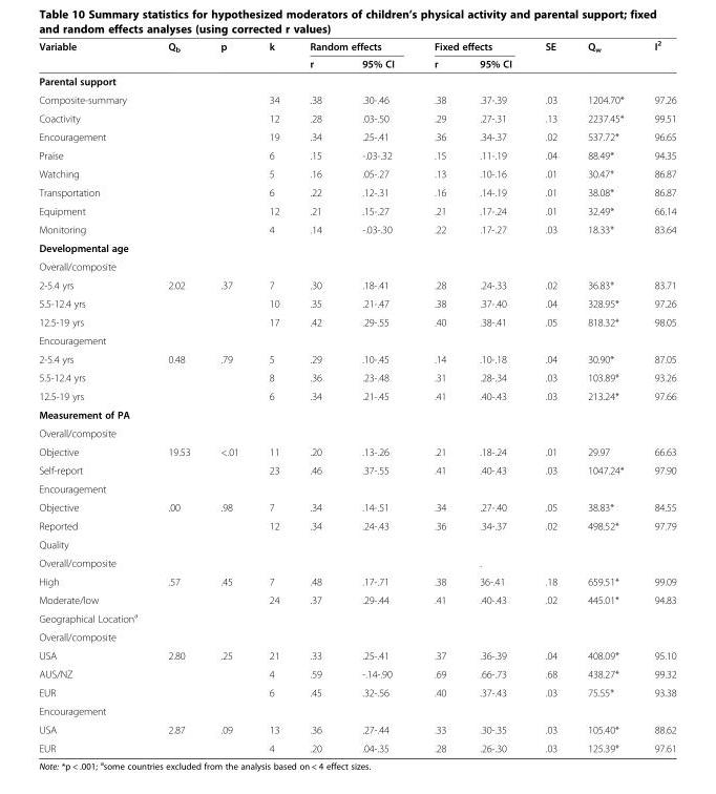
<table><thead><tr><td rowspan="2">Variable</td><td rowspan="2">Q<sub>b</sub></td><td rowspan="2">p</td><td rowspan="2">k</td><td colspan="2">Random effects</td><td colspan="2">Fixed effects</td><td rowspan="2">SE</td><td rowspan="2">Q<sub>w</sub></td><td rowspan="2">I<sup>2</sup></td></tr><tr><td>r</td><td>95% CI</td><td>r</td><td>95% CI</td></tr></thead><tbody><tr><td colspan="11">Parental support</td></tr><tr><td>Composite-summary</td><td></td><td></td><td>34</td><td>.38</td><td>.30-.46</td><td>.38</td><td>.37-.39</td><td>.03</td><td>1204.70*</td><td>97.26</td></tr><tr><td>Coactivity</td><td></td><td></td><td>12</td><td>.28</td><td>.03-.50</td><td>.29</td><td>.27-.31</td><td>.13</td><td>2237.45*</td><td>99.51</td></tr><tr><td>Encouragement</td><td></td><td></td><td>19</td><td>.34</td><td>.25-.41</td><td>.36</td><td>.34-.37</td><td>.02</td><td>537.72*</td><td>96.65</td></tr><tr><td>Praise</td><td></td><td></td><td>6</td><td>.15</td><td>-.03-.32</td><td>.15</td><td>.11-.19</td><td>.04</td><td>88.49*</td><td>94.35</td></tr><tr><td>Watching</td><td></td><td></td><td>5</td><td>.16</td><td>.05-.27</td><td>.13</td><td>.10-.16</td><td>.01</td><td>30.47*</td><td>86.87</td></tr><tr><td>Transportation</td><td></td><td></td><td>6</td><td>.22</td><td>.12-.31</td><td>.16</td><td>.14-.19</td><td>.01</td><td>38.08*</td><td>86.87</td></tr><tr><td>Equipment</td><td></td><td></td><td>12</td><td>.21</td><td>.15-.27</td><td>.21</td><td>.17-.24</td><td>.01</td><td>32.49*</td><td>66.14</td></tr><tr><td>Monitoring</td><td></td><td></td><td>4</td><td>.14</td><td>-.03-.30</td><td>.22</td><td>.17-.27</td><td>.03</td><td>18.33*</td><td>83.64</td></tr><tr><td colspan="11">Developmental age</td></tr><tr><td colspan="11">Overall/composite</td></tr><tr><td>2-5.4 yrs</td><td>2.02</td><td>.37</td><td>7</td><td>.30</td><td>.18-.41</td><td>.28</td><td>.24-.33</td><td>.02</td><td>36.83*</td><td>83.71</td></tr><tr><td>5.5-12.4 yrs</td><td></td><td></td><td>10</td><td>.35</td><td>.21-.47</td><td>.38</td><td>.37-.40</td><td>.04</td><td>328.95*</td><td>97.26</td></tr><tr><td>12.5-19 yrs</td><td></td><td></td><td>17</td><td>.42</td><td>.29-.55</td><td>.40</td><td>.38-.41</td><td>.05</td><td>818.32*</td><td>98.05</td></tr><tr><td colspan="11">Encouragement</td></tr><tr><td>2-5.4 yrs</td><td>0.48</td><td>.79</td><td>5</td><td>.29</td><td>.10-.45</td><td>.14</td><td>.10-.18</td><td>.04</td><td>30.90*</td><td>87.05</td></tr><tr><td>5.5-12.4 yrs</td><td></td><td></td><td>8</td><td>.36</td><td>.23-.48</td><td>.31</td><td>.28-.34</td><td>.03</td><td>103.89*</td><td>93.26</td></tr><tr><td>12.5-19 yrs</td><td></td><td></td><td>6</td><td>.34</td><td>.21-.45</td><td>.41</td><td>.40-.43</td><td>.03</td><td>213.24*</td><td>97.66</td></tr><tr><td colspan="11">Measurement of PA</td></tr><tr><td colspan="11">Overall/composite</td></tr><tr><td>Objective</td><td>19.53</td><td>&lt;.01</td><td>11</td><td>.20</td><td>.13-.26</td><td>.21</td><td>.18-.24</td><td>.01</td><td>29.97</td><td>66.63</td></tr><tr><td>Self-report</td><td></td><td></td><td>23</td><td>.46</td><td>.37-.55</td><td>.41</td><td>.40-.43</td><td>.03</td><td>1047.24*</td><td>97.90</td></tr><tr><td colspan="11">Encouragement</td></tr><tr><td>Objective</td><td>.00</td><td>.98</td><td>7</td><td>.34</td><td>.14-.51</td><td>.34</td><td>.27-.40</td><td>.05</td><td>38.83*</td><td>84.55</td></tr><tr><td>Reported</td><td></td><td></td><td>12</td><td>.34</td><td>.24-.43</td><td>.36</td><td>.34-.37</td><td>.02</td><td>498.52*</td><td>97.79</td></tr><tr><td colspan="11">Quality</td></tr><tr><td>Overall/composite</td><td></td><td></td><td></td><td></td><td></td><td></td><td>.</td><td></td><td></td><td></td></tr><tr><td>High</td><td>.57</td><td>.45</td><td>7</td><td>.48</td><td>.17-.71</td><td>.38</td><td>36-.41</td><td>.18</td><td>659.51*</td><td>99.09</td></tr><tr><td>Moderate/low</td><td></td><td></td><td>24</td><td>.37</td><td>.29-.44</td><td>.41</td><td>.40-.43</td><td>.02</td><td>445.01*</td><td>94.83</td></tr><tr><td colspan="11">Geographical Location<sup>a</sup></td></tr><tr><td colspan="11">Overall/composite</td></tr><tr><td>USA</td><td>2.80</td><td>.25</td><td>21</td><td>.33</td><td>.25-.41</td><td>.37</td><td>.36-.39</td><td>.04</td><td>408.09*</td><td>95.10</td></tr><tr><td>AUS/NZ</td><td></td><td></td><td>4</td><td>.59</td><td>-.14-.90</td><td>.69</td><td>.66-.73</td><td>.68</td><td>438.27*</td><td>99.32</td></tr><tr><td>EUR</td><td></td><td></td><td>6</td><td>.45</td><td>.32-.56</td><td>.40</td><td>.37-.43</td><td>.03</td><td>75.55*</td><td>93.38</td></tr><tr><td colspan="11">Encouragement</td></tr><tr><td>USA</td><td>2.87</td><td>.09</td><td>13</td><td>.36</td><td>.27-.44</td><td>.33</td><td>.30-.35</td><td>.03</td><td>105.40*</td><td>88.62</td></tr><tr><td>EUR</td><td></td><td></td><td>4</td><td>.20</td><td>.04-.35</td><td>.28</td><td>.26-.30</td><td>.03</td><td>125.39*</td><td>97.61</td></tr></tbody></table>